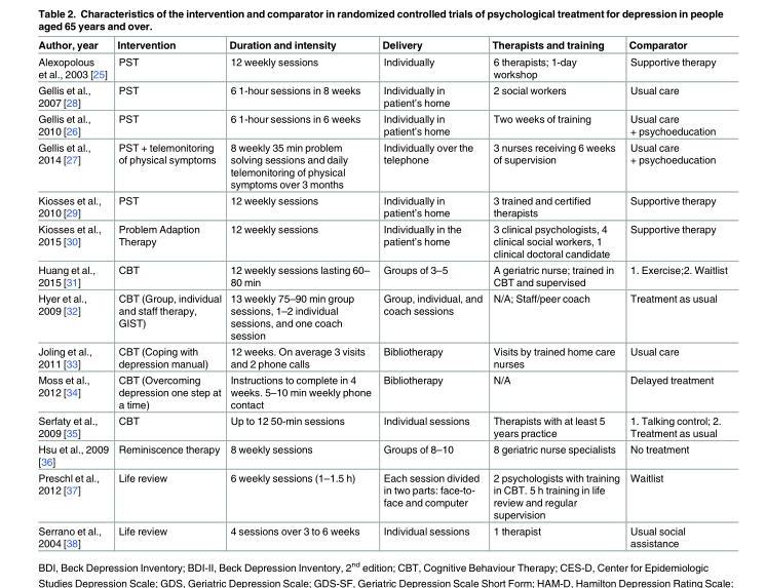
<table><thead><tr><td>Author, year</td><td>Intervention</td><td>Duration and intensity</td><td>Delivery</td><td>Therapists and training</td><td>Comparator</td></tr></thead><tbody><tr><td>Alexopolous et al., 2003 [25]</td><td>PST</td><td>12 weekly sessions</td><td>Individually</td><td>6 therapists; 1-day workshop</td><td>Supportive therapy</td></tr><tr><td>Gellis et al., 2007 [28]</td><td>PST</td><td>6 1-hour sessions in 8 weeks</td><td>Individually in patient’s home</td><td>2 social workers</td><td>Usual care</td></tr><tr><td>Gellis et al., 2010 [26]</td><td>PST</td><td>6 1-hour sessions in 6 weeks</td><td>Individually in patient’s home</td><td>Two weeks of training</td><td>Usual care + psychoeducation</td></tr><tr><td>Gellis et al., 2014 [27]</td><td>PST + telemonitoring of physical symptoms</td><td>8 weekly 35 min problem solving sessions and daily telemonitoring of physical symptoms over 3 months</td><td>Individually over the telephone</td><td>3 nurses receiving 6 weeks of supervision</td><td>Usual care + psychoeducation</td></tr><tr><td>Kiosses et al., 2010 [29]</td><td>PST</td><td>12 weekly sessions</td><td>Individually in patient’s home</td><td>3 trained and certified therapists</td><td>Supportive therapy</td></tr><tr><td>Kiosses et al., 2015 [30]</td><td>Problem Adaption Therapy</td><td>12 weekly sessions</td><td>Individually in the patient’s home</td><td>3 clinical psychologists, 4 clinical social workers, 1 clinical doctoral candidate</td><td>Supportive therapy</td></tr><tr><td>Huang et al., 2015 [31]</td><td>CBT</td><td>12 weekly sessions lasting 60– 80 min</td><td>Groups of 3–5</td><td>A geriatric nurse; trained in CBT and supervised</td><td>1. Exercise;2. Waitlist</td></tr><tr><td>Hyer et al., 2009 [32]</td><td>CBT (Group, individual and staff therapy, GIST)</td><td>13 weekly 75–90 min group sessions, 1–2 individual sessions, and one coach session</td><td>Group, individual, and coach sessions</td><td>N/A; Staff/peer coach</td><td>Treatment as usual</td></tr><tr><td>Joling et al., 2011 [33]</td><td>CBT (Coping with depression manual)</td><td>12 weeks. On average 3 visits and 2 phone calls</td><td>Bibliotherapy</td><td>Visits by trained home care nurses</td><td>Usual care</td></tr><tr><td>Moss et al., 2012 [34]</td><td>CBT (Overcoming depression one step at a time)</td><td>Instructions to complete in 4 weeks. 5–10 min weekly phone contact</td><td>Bibliotherapy</td><td>N/A</td><td>Delayed treatment</td></tr><tr><td>Serfaty et al., 2009 [35]</td><td>CBT</td><td>Up to 12 50-min sessions</td><td>Individual sessions</td><td>Therapists with at least 5 years practice</td><td>1. Talking control; 2. Treatment as usual</td></tr><tr><td>Hsu et al., 2009 [36]</td><td>Reminiscence therapy</td><td>8 weekly sessions</td><td>Groups of 8–10</td><td>8 geriatric nurse specialists</td><td>No treatment</td></tr><tr><td>Preschl et al., 2012 [37]</td><td>Life review</td><td>6 weekly sessions (1–1.5 h)</td><td>Each session divided in two parts: face-to- face and computer</td><td>2 psychologists with training in CBT. 5 h training in life review and regular supervision</td><td>Waitlist</td></tr><tr><td>Serrano et al., 2004 [38]</td><td>Life review</td><td>4 sessions over 3 to 6 weeks</td><td>Individual sessions</td><td>1 therapist</td><td>Usual social assistance</td></tr></tbody></table>